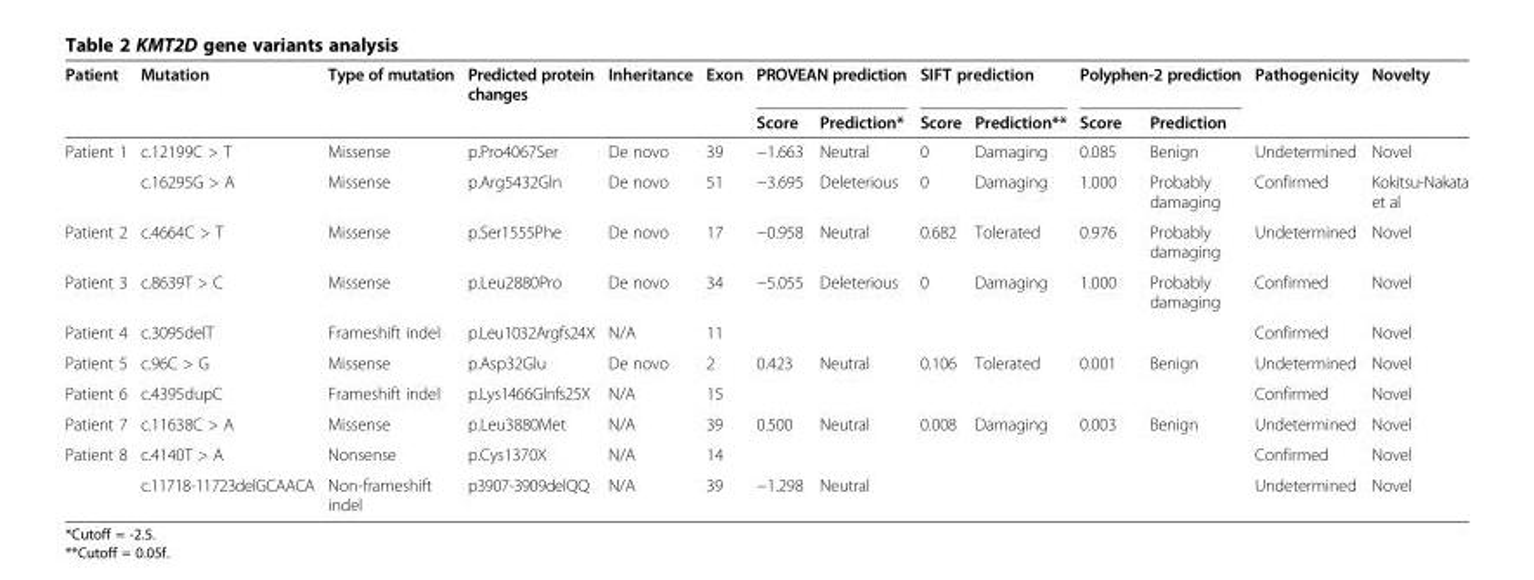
<table><thead><tr><td rowspan="2">Patient</td><td rowspan="2">Mutation</td><td rowspan="2">Type of mutation</td><td rowspan="2">Predicted protein changes</td><td rowspan="2">Inheritance</td><td rowspan="2">Exon</td><td colspan="2">PROVEAN prediction</td><td colspan="2">SIFT prediction</td><td colspan="2">Polyphen-2 prediction</td><td rowspan="2">Pathogenicity</td><td rowspan="2">Novelty</td></tr><tr><td>Score</td><td>Prediction*</td><td>Score</td><td>Prediction**</td><td>Score</td><td>Prediction</td></tr></thead><tbody><tr><td rowspan="2">Patient 1</td><td>c.12199C &gt; T</td><td>Missense</td><td>p.Pro4067Ser</td><td>De novo</td><td>39</td><td>−1.663</td><td>Neutral</td><td>0</td><td>Damaging</td><td>0.085</td><td>Benign</td><td>Undetermined</td><td>Novel</td></tr><tr><td>c.16295G &gt; A</td><td>Missense</td><td>p.Arg5432Gln</td><td>De novo</td><td>51</td><td>−3.695</td><td>Deleterious</td><td>0</td><td>Damaging</td><td>1.000</td><td>Probably damaging</td><td>Confirmed</td><td>Kokitsu-Nakata et al</td></tr><tr><td>Patient 2</td><td>c.4664C &gt; T</td><td>Missense</td><td>p.Ser1555Phe</td><td>De novo</td><td>17</td><td>−0.958</td><td>Neutral</td><td>0.682</td><td>Tolerated</td><td>0.976</td><td>Probably damaging</td><td>Undetermined</td><td>Novel</td></tr><tr><td>Patient 3</td><td>c.8639T &gt; C</td><td>Missense</td><td>p.Leu2880Pro</td><td>De novo</td><td>34</td><td>−5.055</td><td>Deleterious</td><td>0</td><td>Damaging</td><td>1.000</td><td>Probably damaging</td><td>Confirmed</td><td>Novel</td></tr><tr><td>Patient 4</td><td>c.3095delT</td><td>Frameshift indel</td><td>p.Leu1032Argfs24X</td><td>N/A</td><td>11</td><td></td><td></td><td></td><td></td><td></td><td></td><td>Confirmed</td><td>Novel</td></tr><tr><td>Patient 5</td><td>c.96C &gt; G</td><td>Missense</td><td>p.Asp32Glu</td><td>De novo</td><td>2</td><td>0.423</td><td>Neutral</td><td>0.106</td><td>Tolerated</td><td>0.001</td><td>Benign</td><td>Undetermined</td><td>Novel</td></tr><tr><td>Patient 6</td><td>c.4395dupC</td><td>Frameshift indel</td><td>p.Lys1466Glnfs25X</td><td>N/A</td><td>15</td><td></td><td></td><td></td><td></td><td></td><td></td><td>Confirmed</td><td>Novel</td></tr><tr><td>Patient 7</td><td>c.11638C &gt; A</td><td>Missense</td><td>p.Leu3880Met</td><td>N/A</td><td>39</td><td>0.500</td><td>Neutral</td><td>0.008</td><td>Damaging</td><td>0.003</td><td>Benign</td><td>Undetermined</td><td>Novel</td></tr><tr><td rowspan="2">Patient 8</td><td>c.4140T &gt; A</td><td>Nonsense</td><td>p.Cys1370X</td><td>N/A</td><td>14</td><td></td><td></td><td></td><td></td><td></td><td></td><td>Confirmed</td><td>Novel</td></tr><tr><td>c.11718-11723delGCAACA</td><td>Non-frameshift indel</td><td>p3907-3909delQQ</td><td>N/A</td><td>39</td><td>−1.298</td><td>Neutral</td><td></td><td></td><td></td><td></td><td>Undetermined</td><td>Novel</td></tr></tbody></table>